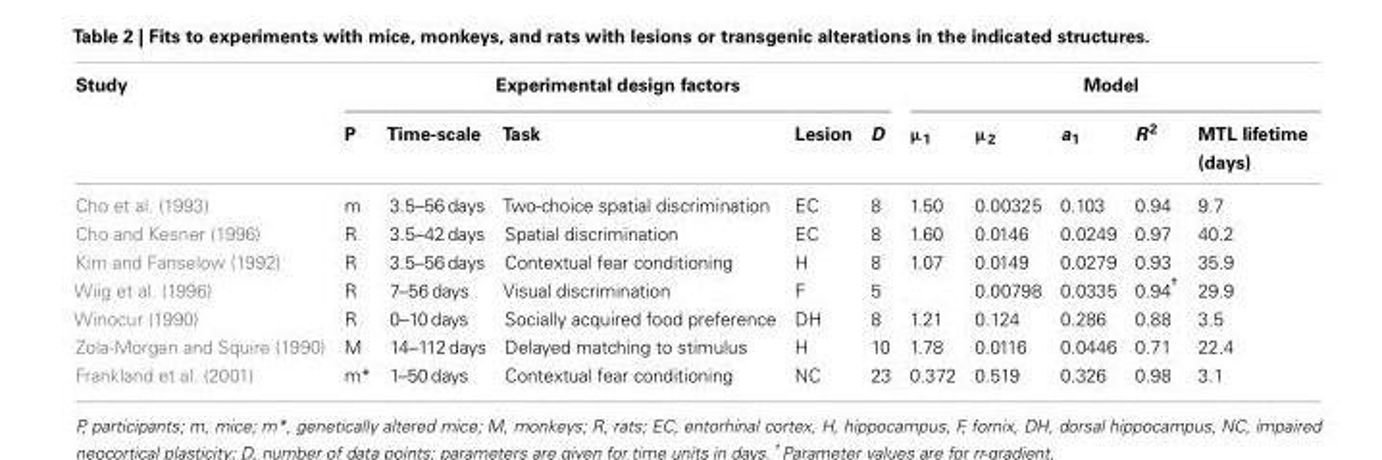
<table><thead><tr><td rowspan="2">Study</td><td colspan="5">Experimental design factors</td><td colspan="5">Model</td></tr><tr><td>P</td><td>Time-scale</td><td>Task</td><td>Lesion</td><td>D</td><td>µ<sub>1</sub></td><td>µ<sub>2</sub></td><td>a<sub>1</sub></td><td>R<sup>2</sup></td><td>MTL lifetime (days)</td></tr></thead><tbody><tr><td>Cho et al. (1993)</td><td>m</td><td>3.5–56 days</td><td>Two-choice spatial discrimination</td><td>EC</td><td>8</td><td>1.50</td><td>0.00325</td><td>0.103</td><td>0.94</td><td>9.7</td></tr><tr><td>Cho and Kesner (1996)</td><td>R</td><td>3.5–42 days</td><td>Spatial discrimination</td><td>EC</td><td>8</td><td>1.60</td><td>0.0146</td><td>0.0249</td><td>0.97</td><td>40.2</td></tr><tr><td>Kim and Fanselow (1992)</td><td>R</td><td>3.5–56 days</td><td>Contextual fear conditioning</td><td>H</td><td>8</td><td>1.07</td><td>0.0149</td><td>0.0279</td><td>0.93</td><td>35.9</td></tr><tr><td>Wiig et al. (1996)</td><td>R</td><td>7–56 days</td><td>Visual discrimination</td><td>F</td><td>5</td><td></td><td>0.00798</td><td>0.0335</td><td>0.94 <sup>†</sup></td><td>29.9</td></tr><tr><td>Winocur (1990)</td><td>R</td><td>0–10 days</td><td>Socially acquired food preference</td><td>DH</td><td>8</td><td>1.21</td><td>0.124</td><td>0.286</td><td>0.88</td><td>3.5</td></tr><tr><td>Zola-Morgan and Squire (1990)</td><td>M</td><td>14–112 days</td><td>Delayed matching to stimulus</td><td>H</td><td>10</td><td>1.78</td><td>0.0116</td><td>0.0446</td><td>0.71</td><td>22.4</td></tr><tr><td>Frankland et al. (2001)</td><td>m*</td><td>1–50 days</td><td>Contextual fear conditioning</td><td>NC</td><td>23</td><td>0.372</td><td>0.519</td><td>0.326</td><td>0.98</td><td>3.1</td></tr></tbody></table>